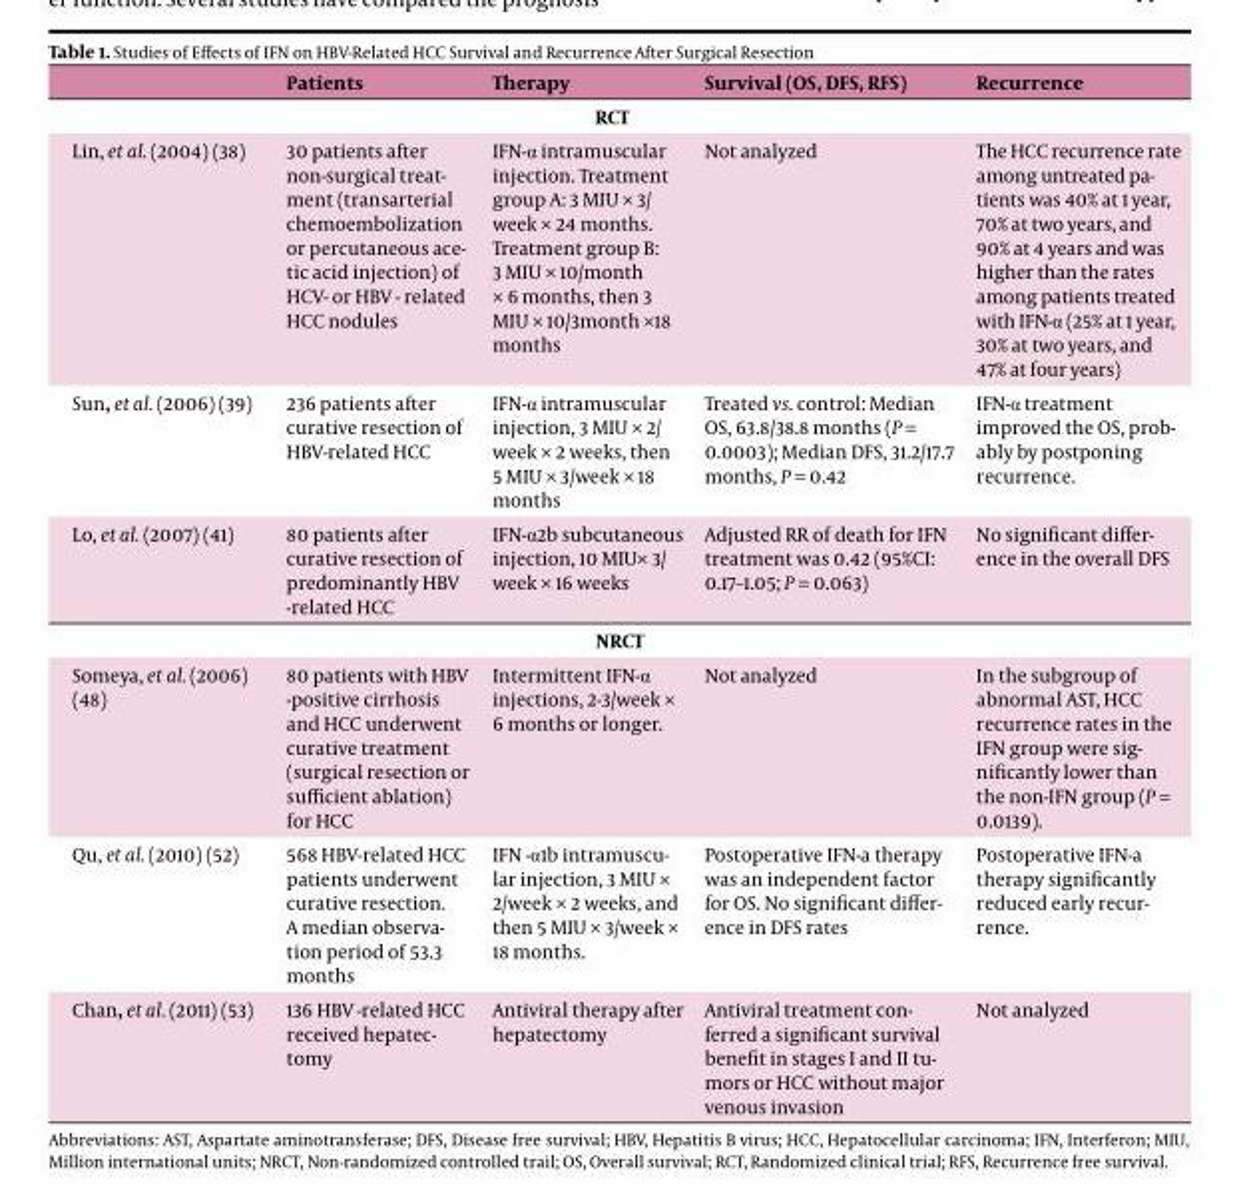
<table><thead><tr><td></td><td>Patients</td><td>Therapy</td><td>Survival (OS, DFS, RFS)</td><td>Recurrence</td></tr></thead><tbody><tr><td colspan="5">RCT</td></tr><tr><td>Lin, et al. (2004) (38)</td><td>30 patients after non-surgical treat- ment (transarterial chemoembolization or percutaneous ace- tic acid injection) of HCV- or HBV - related HCC nodules</td><td>IFN-α intramuscular injection. Treatment group A: 3 MIU × 3/ week × 24 months. Treatment group B: 3 MIU × 10/month × 6 months, then 3 MIU × 10/3month ×18 months</td><td>Not analyzed</td><td>The HCC recurrence rate among untreated pa- tients was 40% at 1 year, 70% at two years, and 90% at 4 years and was higher than the rates among patients treated with IFN-α (25% at 1 year, 30% at two years, and 47% at four years)</td></tr><tr><td>Sun, et al. (2006) (39)</td><td>236 patients after curative resection of HBV-related HCC</td><td>IFN-α intramuscular injection, 3 MIU × 2/ week × 2 weeks, then 5 MIU × 3/week × 18 months</td><td>Treated vs. control: Median OS, 63.8/38.8 months (P = 0.0003); Median DFS, 31.2/17.7 months, P = 0.42</td><td>IFN-α treatment improved the OS, prob- ably by postponing recurrence.</td></tr><tr><td>Lo, et al. (2007) (41)</td><td>80 patients after curative resection of predominantly HBV -related HCC</td><td>IFN-α2b subcutaneous injection, 10 MIU× 3/ week × 16 weeks</td><td>Adjusted RR of death for IFN treatment was 0.42 (95%CI: 0.17–1.05; P = 0.063)</td><td>No significant differ- ence in the overall DFS</td></tr><tr><td colspan="5">NRCT</td></tr><tr><td>Someya, et al. (2006) (48)</td><td>80 patients with HBV -positive cirrhosis and HCC underwent curative treatment (surgical resection or sufficient ablation) for HCC</td><td>Intermittent IFN-α injections, 2-3/week × 6 months or longer.</td><td>Not analyzed</td><td>In the subgroup of abnormal AST, HCC recurrence rates in the IFN group were sig- nificantly lower than the non-IFN group (P = 0.0139).</td></tr><tr><td>Qu, et al. (2010) (52)</td><td>568 HBV-related HCC patients underwent curative resection. A median observa- tion period of 53.3 months</td><td>IFN -α1b intramuscu- lar injection, 3 MIU × 2/week × 2 weeks, and then 5 MIU × 3/week × 18 months.</td><td>Postoperative IFN-a therapy was an independent factor for OS. No significant differ- ence in DFS rates</td><td>Postoperative IFN-a therapy significantly reduced early recur- rence.</td></tr><tr><td>Chan, et al. (2011) (53)</td><td>136 HBV -related HCC received hepatec- tomy</td><td>Antiviral therapy after hepatectomy</td><td>Antiviral treatment con- ferred a significant survival benefit in stages I and II tu- mors or HCC without major venous invasion</td><td>Not analyzed</td></tr></tbody></table>